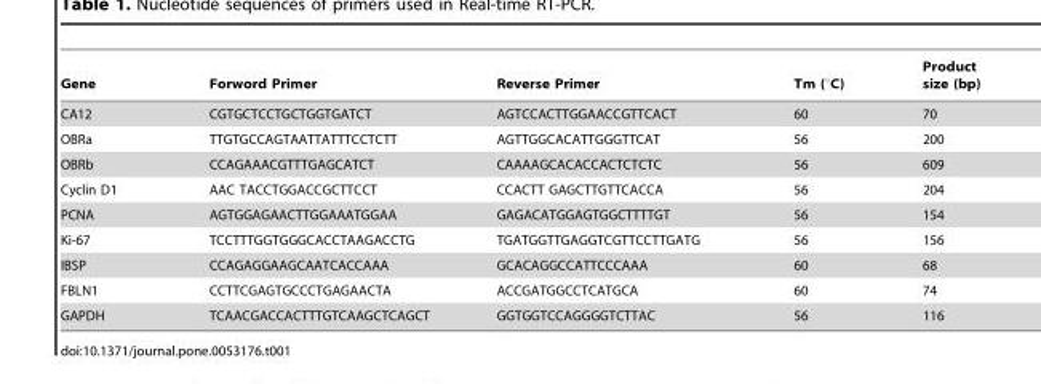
<table><thead><tr><td>Gene</td><td>Forword Primer</td><td>Reverse Primer</td><td>Tm (°C)</td><td>Product size (bp)</td></tr></thead><tbody><tr><td>CA12</td><td>CGTGCTCCTGCTGGTGATCT</td><td>AGTCCACTTGGAACCGTTCACT</td><td>60</td><td>70</td></tr><tr><td>OBRa</td><td>TTGTGCCAGTAATTATTTCCTCTT</td><td>AGTTGGCACATTGGGTTCAT</td><td>56</td><td>200</td></tr><tr><td>OBRb</td><td>CCAGAAACGTTTGAGCATCT</td><td>CAAAAGCACACCACTCTCTC</td><td>56</td><td>609</td></tr><tr><td>Cyclin D1</td><td>AAC TACCTGGACCGCTTCCT</td><td>CCACTT GAGCTTGTTCACCA</td><td>56</td><td>204</td></tr><tr><td>PCNA</td><td>AGTGGAGAACTTGGAAATGGAA</td><td>GAGACATGGAGTGGCTTTTGT</td><td>56</td><td>154</td></tr><tr><td>Ki-67</td><td>TCCTTTGGTGGGCACCTAAGACCTG</td><td>TGATGGTTGAGGTCGTTCCTTGATG</td><td>56</td><td>156</td></tr><tr><td>IBSP</td><td>CCAGAGGAAGCAATCACCAAA</td><td>GCACAGGCCATTCCCAAA</td><td>60</td><td>68</td></tr><tr><td>FBLN1</td><td>CCTTCGAGTGCCCTGAGAACTA</td><td>ACCGATGGCCTCATGCA</td><td>60</td><td>74</td></tr><tr><td>GAPDH</td><td>TCAACGACCACTTTGTCAAGCTCAGCT</td><td>GGTGGTCCAGGGGTCTTAC</td><td>56</td><td>116</td></tr></tbody></table>